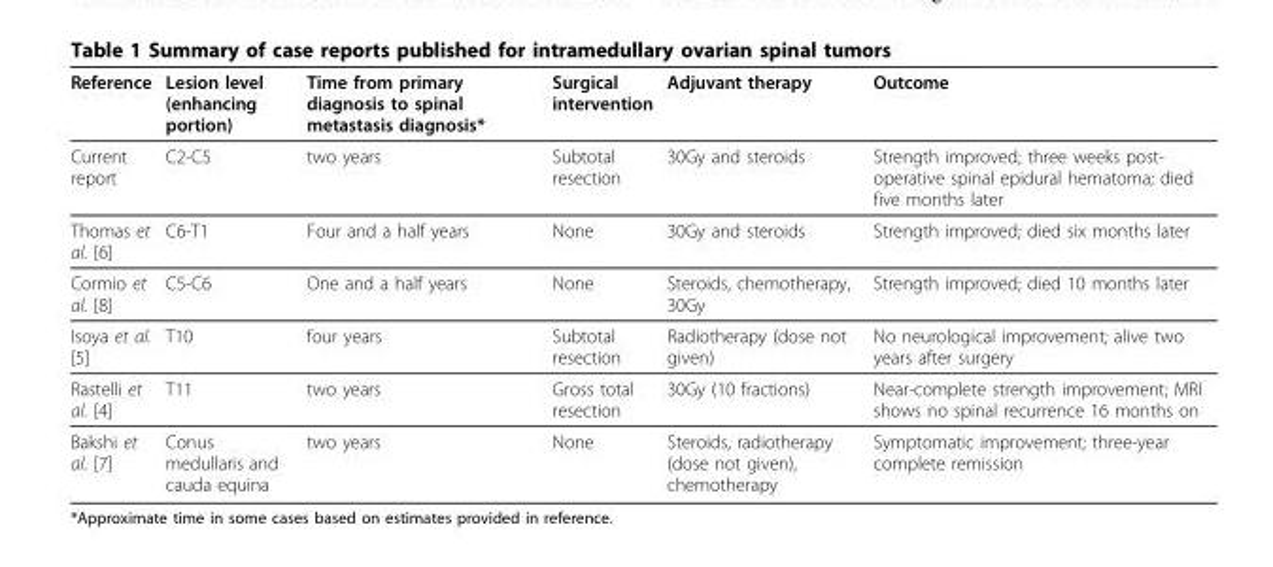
<table><thead><tr><td>Reference</td><td>Lesion level (enhancing portion)</td><td>Time from primary diagnosis to spinal metastasis diagnosis*</td><td>Surgical intervention</td><td>Adjuvant therapy</td><td>Outcome</td></tr></thead><tbody><tr><td>Current report</td><td>C2-C5</td><td>two years</td><td>Subtotal resection</td><td>30Gy and steroids</td><td>Strength improved; three weeks post- operative spinal epidural hematoma; died five months later</td></tr><tr><td>Thomas et al. [6]</td><td>C6-T1</td><td>Four and a half years</td><td>None</td><td>30Gy and steroids</td><td>Strength improved; died six months later</td></tr><tr><td>Cormio et al. [8]</td><td>C5-C6</td><td>One and a half years</td><td>None</td><td>Steroids, chemotherapy, 30Gy</td><td>Strength improved; died 10 months later</td></tr><tr><td>Isoya et al. [5]</td><td>T10</td><td>four years</td><td>Subtotal resection</td><td>Radiotherapy (dose not given)</td><td>No neurological improvement; alive two years after surgery</td></tr><tr><td>Rastelli et al. [4]</td><td>T11</td><td>two years</td><td>Gross total resection</td><td>30Gy (10 fractions)</td><td>Near-complete strength improvement; MRI shows no spinal recurrence 16 months on</td></tr><tr><td>Bakshi et al. [7]</td><td>Conus medullaris and cauda equina</td><td>two years</td><td>None</td><td>Steroids, radiotherapy (dose not given), chemotherapy</td><td>Symptomatic improvement; three-year complete remission</td></tr></tbody></table>